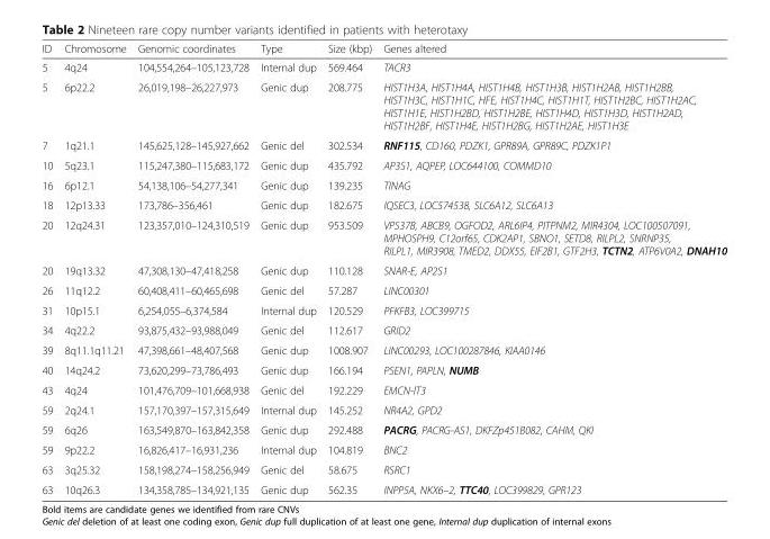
<table><thead><tr><td>ID</td><td>Chromosome</td><td>Genomic coordinates</td><td>Type</td><td>Size (kbp)</td><td>Genes altered</td></tr></thead><tbody><tr><td>5</td><td>4q24</td><td>104,554,264–105,123,728</td><td>Internal dup</td><td>569.464</td><td>TACR3</td></tr><tr><td>5</td><td>6p22.2</td><td>26,019,198–26,227,973</td><td>Genic dup</td><td>208.775</td><td>HIST1H3A, HIST1H4A, HIST1H4B, HIST1H3B, HIST1H2AB, HIST1H2BB, HIST1H3C, HIST1H1C, HFE, HIST1H4C, HIST1H1T, HIST1H2BC, HIST1H2AC, HIST1H1E, HIST1H2BD, HIST1H2BE, HIST1H4D, HIST1H3D, HIST1H2AD, HIST1H2BF, HIST1H4E, HIST1H2BG, HIST1H2AE, HIST1H3E</td></tr><tr><td>7</td><td>1q21.1</td><td>145,625,128–145,927,662</td><td>Genic del</td><td>302.534</td><td>RNF115, CD160, PDZK1, GPR89A, GPR89C, PDZK1P1</td></tr><tr><td>10</td><td>5q23.1</td><td>115,247,380–115,683,172</td><td>Genic dup</td><td>435.792</td><td>AP3S1, AQPEP, LOC644100, COMMD10</td></tr><tr><td>16</td><td>6p12.1</td><td>54,138,106–54,277,341</td><td>Genic dup</td><td>139.235</td><td>TINAG</td></tr><tr><td>18</td><td>12p13.33</td><td>173,786–356,461</td><td>Genic dup</td><td>182.675</td><td>IQSEC3, LOC574538, SLC6A12, SLC6A13</td></tr><tr><td>20</td><td>12q24.31</td><td>123,357,010–124,310,519</td><td>Genic dup</td><td>953.509</td><td>VPS37B, ABCB9, OGFOD2, ARL6IP4, PITPNM2, MIR4304, LOC100507091, MPHOSPH9, C12orf65, CDK2AP1, SBNO1, SETD8, RILPL2, SNRNP35, RILPL1, MIR3908, TMED2, DDX55, EIF2B1, GTF2H3, TCTN2, ATP6V0A2, DNAH10</td></tr><tr><td>20</td><td>19q13.32</td><td>47,308,130–47,418,258</td><td>Genic dup</td><td>110.128</td><td>SNAR-E, AP2S1</td></tr><tr><td>26</td><td>11q12.2</td><td>60,408,411–60,465,698</td><td>Genic del</td><td>57.287</td><td>LINC00301</td></tr><tr><td>31</td><td>10p15.1</td><td>6,254,055–6,374,584</td><td>Internal dup</td><td>120.529</td><td>PFKFB3, LOC399715</td></tr><tr><td>34</td><td>4q22.2</td><td>93,875,432–93,988,049</td><td>Genic del</td><td>112.617</td><td>GRID2</td></tr><tr><td>39</td><td>8q11.1q11.21</td><td>47,398,661–48,407,568</td><td>Genic dup</td><td>1008.907</td><td>LINC00293, LOC100287846, KIAA0146</td></tr><tr><td>40</td><td>14q24.2</td><td>73,620,299–73,786,493</td><td>Genic dup</td><td>166.194</td><td>PSEN1, PAPLN, NUMB</td></tr><tr><td>43</td><td>4q24</td><td>101,476,709–101,668,938</td><td>Genic del</td><td>192.229</td><td>EMCN-IT3</td></tr><tr><td>59</td><td>2q24.1</td><td>157,170,397–157,315,649</td><td>Internal dup</td><td>145.252</td><td>NR4A2, GPD2</td></tr><tr><td>59</td><td>6q26</td><td>163,549,870–163,842,358</td><td>Genic dup</td><td>292.488</td><td>PACRG, PACRG-AS1, DKFZp451B082, CAHM, QKI</td></tr><tr><td>59</td><td>9p22.2</td><td>16,826,417–16,931,236</td><td>Internal dup</td><td>104.819</td><td>BNC2</td></tr><tr><td>63</td><td>3q25.32</td><td>158,198,274–158,256,949</td><td>Genic del</td><td>58.675</td><td>RSRC1</td></tr><tr><td>63</td><td>10q26.3</td><td>134,358,785–134,921,135</td><td>Genic dup</td><td>562.35</td><td>INPP5A, NKX6–2, TTC40, LOC399829, GPR123</td></tr></tbody></table>